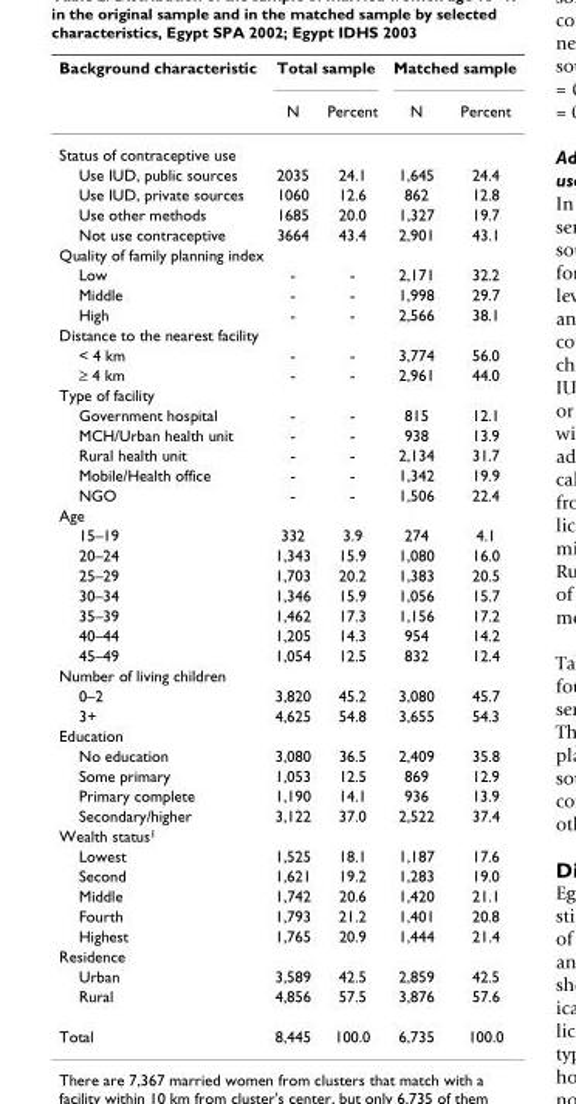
<table><thead><tr><td rowspan="2">Background characteristic</td><td colspan="2">Total sample</td><td colspan="2">Matched sample</td></tr><tr><td>N</td><td>Percent</td><td>N</td><td>Percent</td></tr></thead><tbody><tr><td colspan="5">Status of contraceptive use</td></tr><tr><td>Use IUD, public sources</td><td>2035</td><td>24.1</td><td>1,645</td><td>24.4</td></tr><tr><td>Use IUD, private sources</td><td>1060</td><td>12.6</td><td>862</td><td>12.8</td></tr><tr><td>Use other methods</td><td>1685</td><td>20.0</td><td>1,327</td><td>19.7</td></tr><tr><td>Not use contraceptive</td><td>3664</td><td>43.4</td><td>2,901</td><td>43.1</td></tr><tr><td colspan="5">Quality of family planning index</td></tr><tr><td>Low</td><td>-</td><td>-</td><td>2,171</td><td>32.2</td></tr><tr><td>Middle</td><td>-</td><td>-</td><td>1,998</td><td>29.7</td></tr><tr><td>High</td><td>-</td><td>-</td><td>2,566</td><td>38.1</td></tr><tr><td colspan="5">Distance to the nearest facility</td></tr><tr><td>&lt; 4 km</td><td>-</td><td>-</td><td>3,774</td><td>56.0</td></tr><tr><td>≥ 4 km</td><td>-</td><td>-</td><td>2,961</td><td>44.0</td></tr><tr><td colspan="5">Type of facility</td></tr><tr><td>Government hospital</td><td>-</td><td>-</td><td>815</td><td>12.1</td></tr><tr><td>MCH/Urban health unit</td><td>-</td><td>-</td><td>938</td><td>13.9</td></tr><tr><td>Rural health unit</td><td>-</td><td>-</td><td>2,134</td><td>31.7</td></tr><tr><td>Mobile/Health office</td><td>-</td><td>-</td><td>1,342</td><td>19.9</td></tr><tr><td>NGO</td><td>-</td><td>-</td><td>1,506</td><td>22.4</td></tr><tr><td colspan="5">Age</td></tr><tr><td>15–19</td><td>332</td><td>3.9</td><td>274</td><td>4.1</td></tr><tr><td>20–24</td><td>1,343</td><td>15.9</td><td>1,080</td><td>16.0</td></tr><tr><td>25–29</td><td>1,703</td><td>20.2</td><td>1,383</td><td>20.5</td></tr><tr><td>30–34</td><td>1,346</td><td>15.9</td><td>1,056</td><td>15.7</td></tr><tr><td>35–39</td><td>1,462</td><td>17.3</td><td>1,156</td><td>17.2</td></tr><tr><td>40–44</td><td>1,205</td><td>14.3</td><td>954</td><td>14.2</td></tr><tr><td>45–49</td><td>1,054</td><td>12.5</td><td>832</td><td>12.4</td></tr><tr><td colspan="5">Number of living children</td></tr><tr><td>0–2</td><td>3,820</td><td>45.2</td><td>3,080</td><td>45.7</td></tr><tr><td>3+</td><td>4,625</td><td>54.8</td><td>3,655</td><td>54.3</td></tr><tr><td colspan="5">Education</td></tr><tr><td>No education</td><td>3,080</td><td>36.5</td><td>2,409</td><td>35.8</td></tr><tr><td>Some primary</td><td>1,053</td><td>12.5</td><td>869</td><td>12.9</td></tr><tr><td>Primary complete</td><td>1,190</td><td>14.1</td><td>936</td><td>13.9</td></tr><tr><td>Secondary/higher</td><td>3,122</td><td>37.0</td><td>2,522</td><td>37.4</td></tr><tr><td colspan="5">Wealth status1</td></tr><tr><td>Lowest</td><td>1,525</td><td>18.1</td><td>1,187</td><td>17.6</td></tr><tr><td>Second</td><td>1,621</td><td>19.2</td><td>1,283</td><td>19.0</td></tr><tr><td>Middle</td><td>1,742</td><td>20.6</td><td>1,420</td><td>21.1</td></tr><tr><td>Fourth</td><td>1,793</td><td>21.2</td><td>1,401</td><td>20.8</td></tr><tr><td>Highest</td><td>1,765</td><td>20.9</td><td>1,444</td><td>21.4</td></tr><tr><td colspan="5">Residence</td></tr><tr><td>Urban</td><td>3,589</td><td>42.5</td><td>2,859</td><td>42.5</td></tr><tr><td>Rural</td><td>4,856</td><td>57.5</td><td>3,876</td><td>57.6</td></tr><tr><td>Total</td><td>8,445</td><td>100.0</td><td>6,735</td><td>100.0</td></tr></tbody></table>